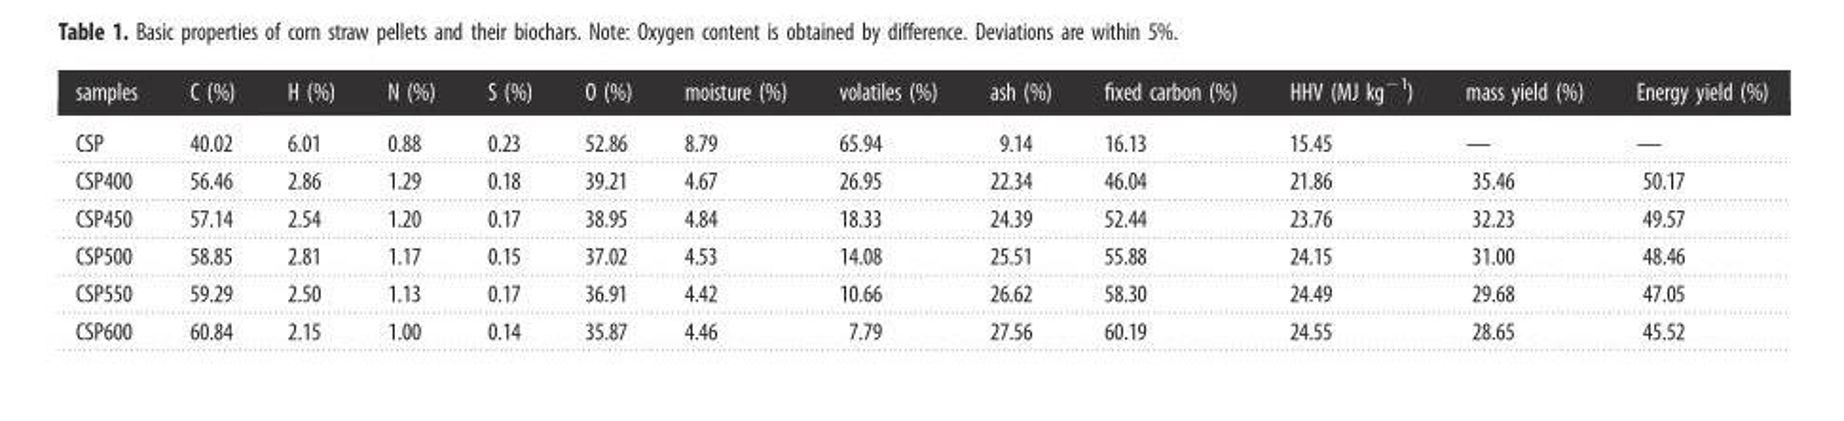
<table><thead><tr><td>samples</td><td>C (%)</td><td>H (%)</td><td>N (%)</td><td>S (%)</td><td>O (%)</td><td>moisture (%)</td><td>volatiles (%)</td><td>ash (%)</td><td>fixed carbon (%)</td><td>HHV (MJ kg<sup>−1</sup>)</td><td>mass yield (%)</td><td>Energy yield (%)</td></tr></thead><tbody><tr><td>CSP</td><td>40.02</td><td>6.01</td><td>0.88</td><td>0.23</td><td>52.86</td><td>8.79</td><td>65.94</td><td>9.14</td><td>16.13</td><td>15.45</td><td>—</td><td>—</td></tr><tr><td>CSP400</td><td>56.46</td><td>2.86</td><td>1.29</td><td>0.18</td><td>39.21</td><td>4.67</td><td>26.95</td><td>22.34</td><td>46.04</td><td>21.86</td><td>35.46</td><td>50.17</td></tr><tr><td>CSP450</td><td>57.14</td><td>2.54</td><td>1.20</td><td>0.17</td><td>38.95</td><td>4.84</td><td>18.33</td><td>24.39</td><td>52.44</td><td>23.76</td><td>32.23</td><td>49.57</td></tr><tr><td>CSP500</td><td>58.85</td><td>2.81</td><td>1.17</td><td>0.15</td><td>37.02</td><td>4.53</td><td>14.08</td><td>25.51</td><td>55.88</td><td>24.15</td><td>31.00</td><td>48.46</td></tr><tr><td>CSP550</td><td>59.29</td><td>2.50</td><td>1.13</td><td>0.17</td><td>36.91</td><td>4.42</td><td>10.66</td><td>26.62</td><td>58.30</td><td>24.49</td><td>29.68</td><td>47.05</td></tr><tr><td>CSP600</td><td>60.84</td><td>2.15</td><td>1.00</td><td>0.14</td><td>35.87</td><td>4.46</td><td>7.79</td><td>27.56</td><td>60.19</td><td>24.55</td><td>28.65</td><td>45.52</td></tr></tbody></table>